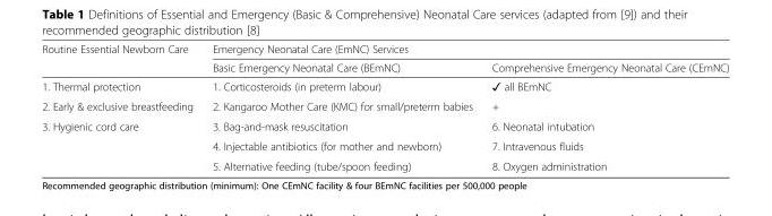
<table><thead><tr><td rowspan="2">Routine Essential Newborn Care</td><td colspan="2">Emergency Neonatal Care (EmNC) Services</td></tr><tr><td>Basic Emergency Neonatal Care (BEmNC)</td><td>Comprehensive Emergency Neonatal Care (CEmNC)</td></tr></thead><tbody><tr><td>1. Thermal protection</td><td>1. Corticosteroids (in preterm labour)</td><td>✓ all BEmNC</td></tr><tr><td>2. Early &amp; exclusive breastfeeding</td><td>2. Kangaroo Mother Care (KMC) for small/preterm babies</td><td>+</td></tr><tr><td rowspan="3">3. Hygienic cord care</td><td>3. Bag-and-mask resuscitation</td><td>6. Neonatal intubation</td></tr><tr><td>4. Injectable antibiotics (for mother and newborn)</td><td>7. Intravenous fluids</td></tr><tr><td>5. Alternative feeding (tube/spoon feeding)</td><td>8. Oxygen administration</td></tr></tbody></table>